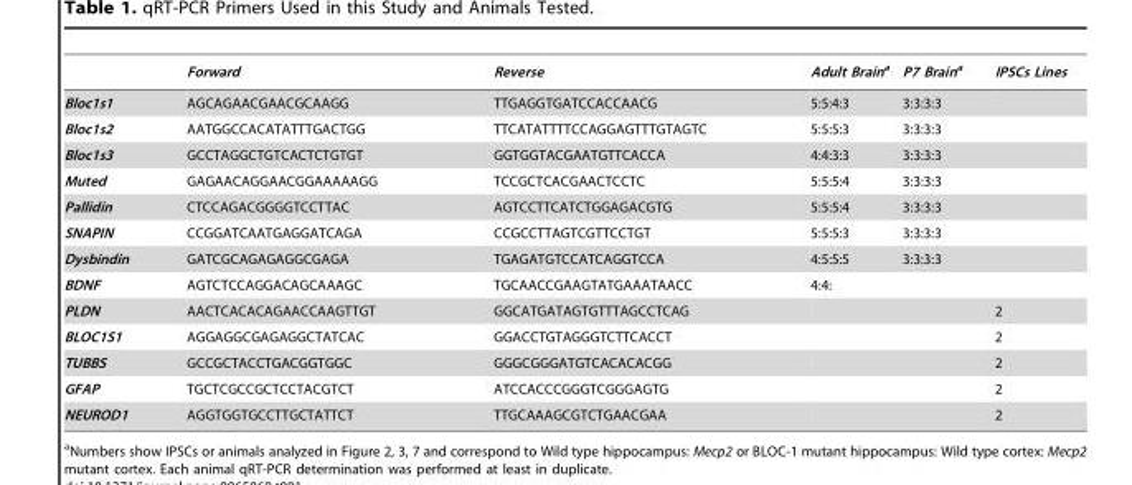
<table><thead><tr><td></td><td>Forward</td><td>Reverse</td><td>Adult Braina</td><td>P7 Braina</td><td>IPSCs Lines</td></tr></thead><tbody><tr><td>Bloc1s1</td><td>AGCAGAACGAACGCAAGG</td><td>TTGAGGTGATCCACCAACG</td><td>5:5:4:3</td><td>3:3:3:3</td><td></td></tr><tr><td>Bloc1s2</td><td>AATGGCCACATATTTGACTGG</td><td>TTCATATTTTCCAGGAGTTTGTAGTC</td><td>5:5:5:3</td><td>3:3:3:3</td><td></td></tr><tr><td>Bloc1s3</td><td>GCCTAGGCTGTCACTCTGTGT</td><td>GGTGGTACGAATGTTCACCA</td><td>4:4:3:3</td><td>3:3:3:3</td><td></td></tr><tr><td>Muted</td><td>GAGAACAGGAACGGAAAAAGG</td><td>TCCGCTCACGAACTCCTC</td><td>5:5:5:4</td><td>3:3:3:3</td><td></td></tr><tr><td>Pallidin</td><td>CTCCAGACGGGGTCCTTAC</td><td>AGTCCTTCATCTGGAGACGTG</td><td>5:5:5:4</td><td>3:3:3:3</td><td></td></tr><tr><td>SNAPIN</td><td>CCGGATCAATGAGGATCAGA</td><td>CCGCCTTAGTCGTTCCTGT</td><td>5:5:5:3</td><td>3:3:3:3</td><td></td></tr><tr><td>Dysbindin</td><td>GATCGCAGAGAGGCGAGA</td><td>TGAGATGTCCATCAGGTCCA</td><td>4:5:5:5</td><td>3:3:3:3</td><td></td></tr><tr><td>BDNF</td><td>AGTCTCCAGGACAGCAAAGC</td><td>TGCAACCGAAGTATGAAATAACC</td><td>4:4:</td><td></td><td></td></tr><tr><td>PLDN</td><td>AACTCACACAGAACCAAGTTGT</td><td>GGCATGATAGTGTTTAGCCTCAG</td><td></td><td></td><td>2</td></tr><tr><td>BLOC1S1</td><td>AGGAGGCGAGAGGCTATCAC</td><td>GGACCTGTAGGGTCTTCACCT</td><td></td><td></td><td>2</td></tr><tr><td>TUBBS</td><td>GCCGCTACCTGACGGTGGC</td><td>GGGCGGGATGTCACACACGG</td><td></td><td></td><td>2</td></tr><tr><td>GFAP</td><td>TGCTCGCCGCTCCTACGTCT</td><td>ATCCACCCGGGTCGGGAGTG</td><td></td><td></td><td>2</td></tr><tr><td>NEUROD1</td><td>AGGTGGTGCCTTGCTATTCT</td><td>TTGCAAAGCGTCTGAACGAA</td><td></td><td></td><td>2</td></tr></tbody></table>